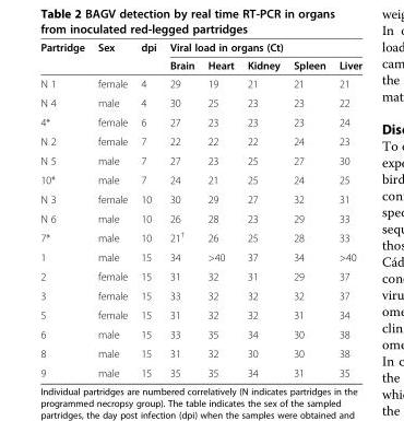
<table><thead><tr><td rowspan="2">Partridge</td><td rowspan="2">Sex</td><td rowspan="2">dpi</td><td colspan="5">Viral load in organs (Ct)</td></tr><tr><td>Brain</td><td>Heart</td><td>Kidney</td><td>Spleen</td><td>Liver</td></tr></thead><tbody><tr><td>N 1</td><td>female</td><td>4</td><td>29</td><td>19</td><td>21</td><td>21</td><td>21</td></tr><tr><td>N 4</td><td>male</td><td>4</td><td>30</td><td>25</td><td>23</td><td>23</td><td>22</td></tr><tr><td>4*</td><td>female</td><td>6</td><td>27</td><td>23</td><td>23</td><td>23</td><td>24</td></tr><tr><td>N 2</td><td>female</td><td>7</td><td>22</td><td>22</td><td>22</td><td>24</td><td>23</td></tr><tr><td>N 5</td><td>male</td><td>7</td><td>27</td><td>23</td><td>25</td><td>27</td><td>30</td></tr><tr><td>10*</td><td>male</td><td>7</td><td>24</td><td>21</td><td>25</td><td>24</td><td>25</td></tr><tr><td>N 3</td><td>female</td><td>10</td><td>30</td><td>29</td><td>27</td><td>32</td><td>31</td></tr><tr><td>N 6</td><td>male</td><td>10</td><td>26</td><td>28</td><td>23</td><td>29</td><td>33</td></tr><tr><td>7*</td><td>male</td><td>10</td><td>21<sup>†</sup></td><td>26</td><td>25</td><td>28</td><td>33</td></tr><tr><td>1</td><td>male</td><td>15</td><td>34</td><td>&gt;40</td><td>37</td><td>34</td><td>&gt;40</td></tr><tr><td>2</td><td>female</td><td>15</td><td>31</td><td>32</td><td>31</td><td>29</td><td>37</td></tr><tr><td>3</td><td>female</td><td>15</td><td>33</td><td>32</td><td>32</td><td>32</td><td>37</td></tr><tr><td>5</td><td>female</td><td>15</td><td>31</td><td>32</td><td>32</td><td>31</td><td>34</td></tr><tr><td>6</td><td>male</td><td>15</td><td>33</td><td>35</td><td>34</td><td>30</td><td>38</td></tr><tr><td>8</td><td>male</td><td>15</td><td>31</td><td>32</td><td>30</td><td>30</td><td>38</td></tr><tr><td>9</td><td>male</td><td>15</td><td>35</td><td>35</td><td>34</td><td>31</td><td>35</td></tr></tbody></table>